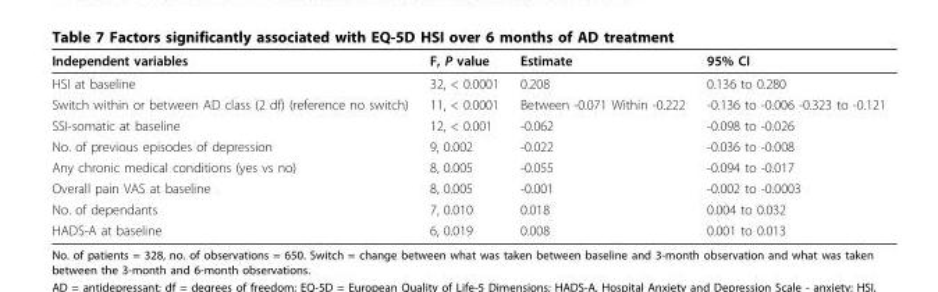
<table><thead><tr><td>Independent variables</td><td>F, P value</td><td>Estimate</td><td>95% CI</td></tr></thead><tbody><tr><td>HSI at baseline</td><td>32, &lt; 0.0001</td><td>0.208</td><td>0.136 to 0.280</td></tr><tr><td>Switch within or between AD class (2 df) (reference no switch)</td><td>11, &lt; 0.0001</td><td>Between -0.071 Within -0.222</td><td>-0.136 to -0.006 -0.323 to -0.121</td></tr><tr><td>SSI-somatic at baseline</td><td>12, &lt; 0.001</td><td>-0.062</td><td>-0.098 to -0.026</td></tr><tr><td>No. of previous episodes of depression</td><td>9, 0.002</td><td>-0.022</td><td>-0.036 to -0.008</td></tr><tr><td>Any chronic medical conditions (yes vs no)</td><td>8, 0.005</td><td>-0.055</td><td>-0.094 to -0.017</td></tr><tr><td>Overall pain VAS at baseline</td><td>8, 0.005</td><td>-0.001</td><td>-0.002 to -0.0003</td></tr><tr><td>No. of dependants</td><td>7, 0.010</td><td>0.018</td><td>0.004 to 0.032</td></tr><tr><td>HADS-A at baseline</td><td>6, 0.019</td><td>0.008</td><td>0.001 to 0.013</td></tr></tbody></table>